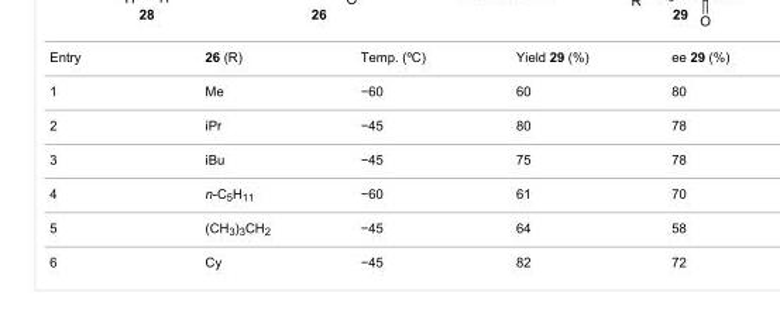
<table><tbody><tr><td>Entry</td><td>26 (R)</td><td>Temp. (ºC)</td><td>Yield 29 (%)</td><td>ee 29 (%)</td></tr><tr><td>1</td><td>Me</td><td>−60</td><td>60</td><td>80</td></tr><tr><td>2</td><td>iPr</td><td>−45</td><td>80</td><td>78</td></tr><tr><td>3</td><td>iBu</td><td>−45</td><td>75</td><td>78</td></tr><tr><td>4</td><td>n-C<sub>5</sub>H<sub>11</sub></td><td>−60</td><td>61</td><td>70</td></tr><tr><td>5</td><td>(CH<sub>3</sub>)<sub>3</sub>CH<sub>2</sub></td><td>−45</td><td>64</td><td>58</td></tr><tr><td>6</td><td>Cy</td><td>−45</td><td>82</td><td>72</td></tr></tbody></table>